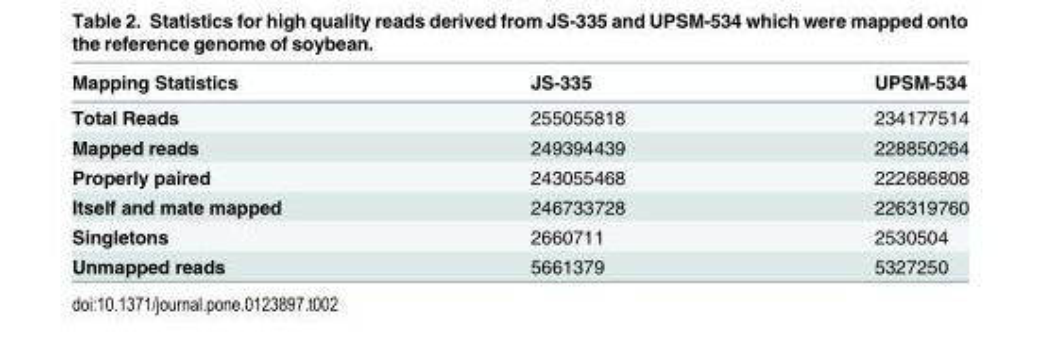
<table><thead><tr><td>Mapping Statistics</td><td>JS-335</td><td>UPSM-534</td></tr></thead><tbody><tr><td>Total Reads</td><td>255055818</td><td>234177514</td></tr><tr><td>Mapped reads</td><td>249394439</td><td>228850264</td></tr><tr><td>Properly paired</td><td>243055468</td><td>222686808</td></tr><tr><td>Itself and mate mapped</td><td>246733728</td><td>226319760</td></tr><tr><td>Singletons</td><td>2660711</td><td>2530504</td></tr><tr><td>Unmapped reads</td><td>5661379</td><td>5327250</td></tr></tbody></table>